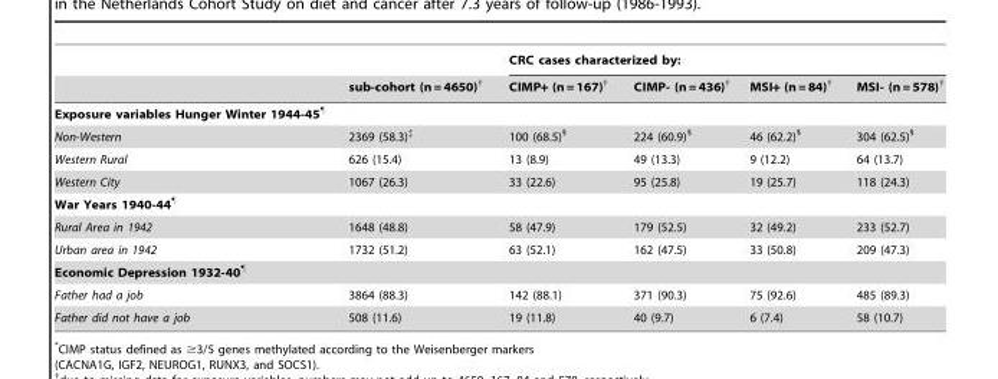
<table><thead><tr><td rowspan="2"></td><td rowspan="2">sub-cohort (n = 4650)†</td><td colspan="4">CRC cases characterized by:</td></tr><tr><td>CIMP+ (n = 167)†</td><td>CIMP- (n = 436)†</td><td>MSI+ (n = 84)†</td><td>MSI- (n = 578)†</td></tr></thead><tbody><tr><td colspan="6">Exposure variables Hunger Winter 1944-45¶</td></tr><tr><td>Non-Western</td><td>2369 (58.3)‡</td><td>100 (68.5)§</td><td>224 (60.9)§</td><td>46 (62.2)§</td><td>304 (62.5)§</td></tr><tr><td>Western Rural</td><td>626 (15.4)</td><td>13 (8.9)</td><td>49 (13.3)</td><td>9 (12.2)</td><td>64 (13.7)</td></tr><tr><td>Western City</td><td>1067 (26.3)</td><td>33 (22.6)</td><td>95 (25.8)</td><td>19 (25.7)</td><td>118 (24.3)</td></tr><tr><td colspan="6">War Years 1940-44¶</td></tr><tr><td>Rural Area in 1942</td><td>1648 (48.8)</td><td>58 (47.9)</td><td>179 (52.5)</td><td>32 (49.2)</td><td>233 (52.7)</td></tr><tr><td>Urban area in 1942</td><td>1732 (51.2)</td><td>63 (52.1)</td><td>162 (47.5)</td><td>33 (50.8)</td><td>209 (47.3)</td></tr><tr><td colspan="6">Economic Depression 1932-40¶</td></tr><tr><td>Father had a job</td><td>3864 (88.3)</td><td>142 (88.1)</td><td>371 (90.3)</td><td>75 (92.6)</td><td>485 (89.3)</td></tr><tr><td>Father did not have a job</td><td>508 (11.6)</td><td>19 (11.8)</td><td>40 (9.7)</td><td>6 (7.4)</td><td>58 (10.7)</td></tr></tbody></table>